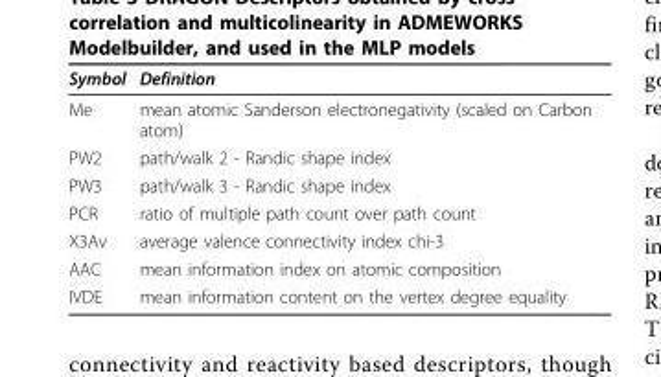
<table><thead><tr><td>Symbol</td><td>Definition</td></tr></thead><tbody><tr><td>Me</td><td>mean atomic Sanderson electronegativity (scaled on Carbon atom)</td></tr><tr><td>PW2</td><td>path/walk 2 - Randic shape index</td></tr><tr><td>PW3</td><td>path/walk 3 - Randic shape index</td></tr><tr><td>PCR</td><td>ratio of multiple path count over path count</td></tr><tr><td>X3Av</td><td>average valence connectivity index chi-3</td></tr><tr><td>AAC</td><td>mean information index on atomic composition</td></tr><tr><td>IVDE</td><td>mean information content on the vertex degree equality</td></tr></tbody></table>